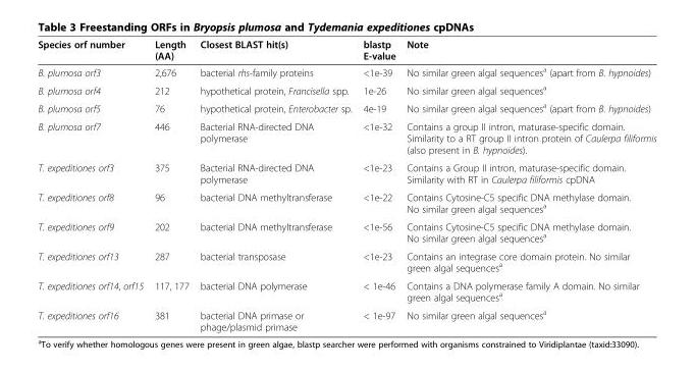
<table><thead><tr><td>Species orf number</td><td>Length (AA)</td><td>Closest BLAST hit(s)</td><td>blastp E-value</td><td>Note</td></tr></thead><tbody><tr><td>B. plumosa orf3</td><td>2,676</td><td>bacterial rhs-family proteins</td><td>&lt;1e-39</td><td>No similar green algal sequences<sup>a</sup> (apart from B. hypnoides)</td></tr><tr><td>B. plumosa orf4</td><td>212</td><td>hypothetical protein, Francisella spp.</td><td>1e-26</td><td>No similar green algal sequences<sup>a</sup></td></tr><tr><td>B. plumosa orf5</td><td>76</td><td>hypothetical protein, Enterobacter sp.</td><td>4e-19</td><td>No similar green algal sequences<sup>a</sup> (apart from B. hypnoides)</td></tr><tr><td>B. plumosa orf7</td><td>446</td><td>Bacterial RNA-directed DNA polymerase</td><td>&lt;1e-32</td><td>Contains a group II intron, maturase-specific domain. Similarity to a RT group II intron protein of Caulerpa filiformis (also present in B. hypnoides).</td></tr><tr><td>T. expeditiones orf3</td><td>375</td><td>Bacterial RNA-directed DNA polymerase</td><td>&lt;1e-23</td><td>Contains a Group II intron, maturase-specific domain. Similarity with RT in Caulerpa filiformis cpDNA</td></tr><tr><td>T. expeditiones orf8</td><td>96</td><td>bacterial DNA methyltransferase</td><td>&lt;1e-22</td><td>Contains Cytosine-C5 specific DNA methylase domain. No similar green algal sequences<sup>a</sup></td></tr><tr><td>T. expeditiones orf9</td><td>202</td><td>bacterial DNA methyltransferase</td><td>&lt;1e-56</td><td>Contains Cytosine-C5 specific DNA methylase domain. No similar green algal sequences<sup>a</sup></td></tr><tr><td>T. expeditiones orf13</td><td>287</td><td>bacterial transposase</td><td>&lt;1e-23</td><td>Contains an integrase core domain protein. No similar green algal sequences<sup>a</sup></td></tr><tr><td>T. expeditiones orf14, orf15</td><td>117, 177</td><td>bacterial DNA polymerase</td><td>&lt; 1e-46</td><td>Contains a DNA polymerase family A domain. No similar green algal sequences<sup>a</sup></td></tr><tr><td>T. expeditiones orf16</td><td>381</td><td>bacterial DNA primase or phage/plasmid primase</td><td>&lt; 1e-97</td><td>No similar green algal sequences<sup>a</sup></td></tr></tbody></table>